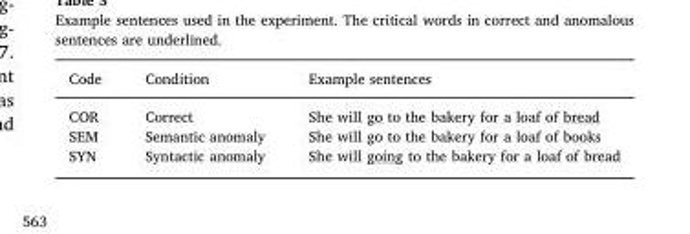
<table><thead><tr><td>Code</td><td>Condition</td><td>Example sentences</td></tr></thead><tbody><tr><td>COR</td><td>Correct</td><td>She will go to the bakery for a loaf of bread</td></tr><tr><td>SEM</td><td>Semantic anomaly</td><td>She will go to the bakery for a loaf of books</td></tr><tr><td>SYN</td><td>Syntactic anomaly</td><td>She will going to the bakery for a loaf of bread</td></tr></tbody></table>